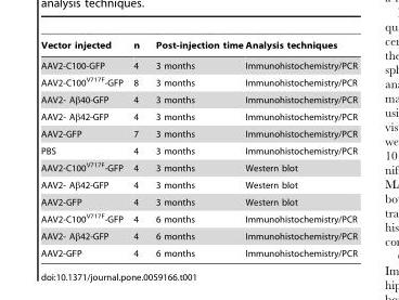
<table><thead><tr><td>Vector injected</td><td>n</td><td>Post-injection time</td><td>Analysis techniques</td></tr></thead><tbody><tr><td>AAV2-C100-GFP</td><td>4</td><td>3 months</td><td>Immunohistochemistry/PCR</td></tr><tr><td>AAV2-C100<sup>V717F</sup>-GFP</td><td>8</td><td>3 months</td><td>Immunohistochemistry/PCR</td></tr><tr><td>AAV2- Aβ40-GFP</td><td>4</td><td>3 months</td><td>Immunohistochemistry/PCR</td></tr><tr><td>AAV2- Aβ42-GFP</td><td>4</td><td>3 months</td><td>Immunohistochemistry/PCR</td></tr><tr><td>AAV2-GFP</td><td>7</td><td>3 months</td><td>Immunohistochemistry/PCR</td></tr><tr><td>PBS</td><td>4</td><td>3 months</td><td>Immunohistochemistry/PCR</td></tr><tr><td>AAV2-C100<sup>V717F</sup>-GFP</td><td>4</td><td>3 months</td><td>Western blot</td></tr><tr><td>AAV2- Aβ42-GFP</td><td>4</td><td>3 months</td><td>Western blot</td></tr><tr><td>AAV2-GFP</td><td>4</td><td>3 months</td><td>Western blot</td></tr><tr><td>AAV2-C100<sup>V717F</sup>-GFP</td><td>4</td><td>6 months</td><td>Immunohistochemistry/PCR</td></tr><tr><td>AAV2- Aβ42-GFP</td><td>4</td><td>6 months</td><td>Immunohistochemistry/PCR</td></tr><tr><td>AAV2-GFP</td><td>4</td><td>6 months</td><td>Immunohistochemistry/PCR</td></tr></tbody></table>